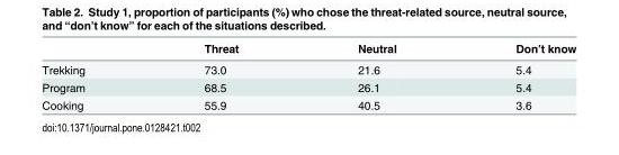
<table><thead><tr><td></td><td>Threat</td><td>Neutral</td><td>Don’t know</td></tr></thead><tbody><tr><td>Trekking</td><td>73.0</td><td>21.6</td><td>5.4</td></tr><tr><td>Program</td><td>68.5</td><td>26.1</td><td>5.4</td></tr><tr><td>Cooking</td><td>55.9</td><td>40.5</td><td>3.6</td></tr></tbody></table>